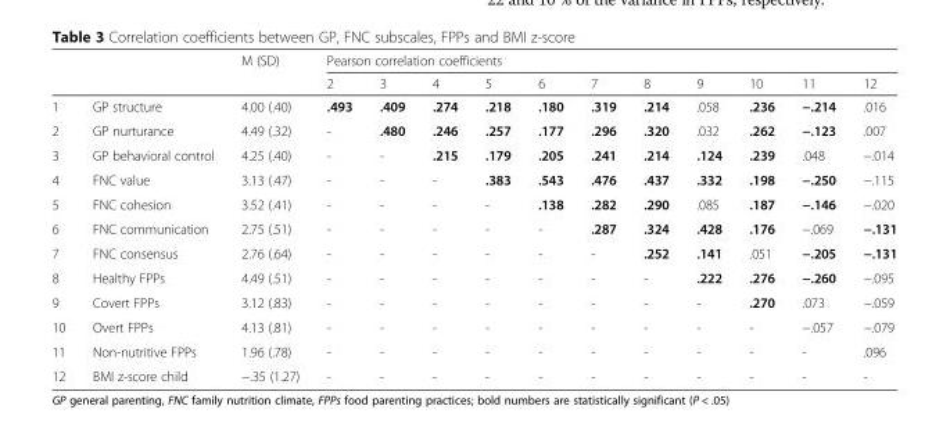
<table><thead><tr><td rowspan="2"></td><td rowspan="2"></td><td rowspan="2">M (SD)</td><td colspan="11">Pearson correlation coefficients</td></tr><tr><td>2</td><td>3</td><td>4</td><td>5</td><td>6</td><td>7</td><td>8</td><td>9</td><td>10</td><td>11</td><td>12</td></tr></thead><tbody><tr><td>1</td><td>GP structure</td><td>4.00 (.40)</td><td>.493</td><td>.409</td><td>.274</td><td>.218</td><td>.180</td><td>.319</td><td>.214</td><td>.058</td><td>.236</td><td>−.214</td><td>.016</td></tr><tr><td>2</td><td>GP nurturance</td><td>4.49 (.32)</td><td>-</td><td>.480</td><td>.246</td><td>.257</td><td>.177</td><td>.296</td><td>.320</td><td>.032</td><td>.262</td><td>−.123</td><td>.007</td></tr><tr><td>3</td><td>GP behavioral control</td><td>4.25 (.40)</td><td>-</td><td>-</td><td>.215</td><td>.179</td><td>.205</td><td>.241</td><td>.214</td><td>.124</td><td>.239</td><td>.048</td><td>−.014</td></tr><tr><td>4</td><td>FNC value</td><td>3.13 (.47)</td><td>-</td><td>-</td><td>-</td><td>.383</td><td>.543</td><td>.476</td><td>.437</td><td>.332</td><td>.198</td><td>−.250</td><td>−.115</td></tr><tr><td>5</td><td>FNC cohesion</td><td>3.52 (.41)</td><td>-</td><td>-</td><td>-</td><td>-</td><td>.138</td><td>.282</td><td>.290</td><td>.085</td><td>.187</td><td>−.146</td><td>−.020</td></tr><tr><td>6</td><td>FNC communication</td><td>2.75 (.51)</td><td>-</td><td>-</td><td>-</td><td>-</td><td>-</td><td>.287</td><td>.324</td><td>.428</td><td>.176</td><td>−.069</td><td>−.131</td></tr><tr><td>7</td><td>FNC consensus</td><td>2.76 (.64)</td><td>-</td><td>-</td><td>-</td><td>-</td><td>-</td><td>-</td><td>.252</td><td>.141</td><td>.051</td><td>−.205</td><td>−.131</td></tr><tr><td>8</td><td>Healthy FPPs</td><td>4.49 (.51)</td><td>-</td><td>-</td><td>-</td><td>-</td><td>-</td><td>-</td><td>-</td><td>.222</td><td>.276</td><td>−.260</td><td>−.095</td></tr><tr><td>9</td><td>Covert FPPs</td><td>3.12 (.83)</td><td>-</td><td>-</td><td>-</td><td>-</td><td>-</td><td>-</td><td>-</td><td>-</td><td>.270</td><td>.073</td><td>−.059</td></tr><tr><td>10</td><td>Overt FPPs</td><td>4.13 (.81)</td><td>-</td><td>-</td><td>-</td><td>-</td><td>-</td><td>-</td><td>-</td><td>-</td><td>-</td><td>−.057</td><td>−.079</td></tr><tr><td>11</td><td>Non-nutritive FPPs</td><td>1.96 (.78)</td><td>-</td><td>-</td><td>-</td><td>-</td><td>-</td><td>-</td><td>-</td><td>-</td><td>-</td><td>-</td><td>.096</td></tr><tr><td>12</td><td>BMI z-score child</td><td>−.35 (1.27)</td><td>-</td><td>-</td><td>-</td><td>-</td><td>-</td><td>-</td><td>-</td><td>-</td><td>-</td><td>-</td><td>-</td></tr></tbody></table>